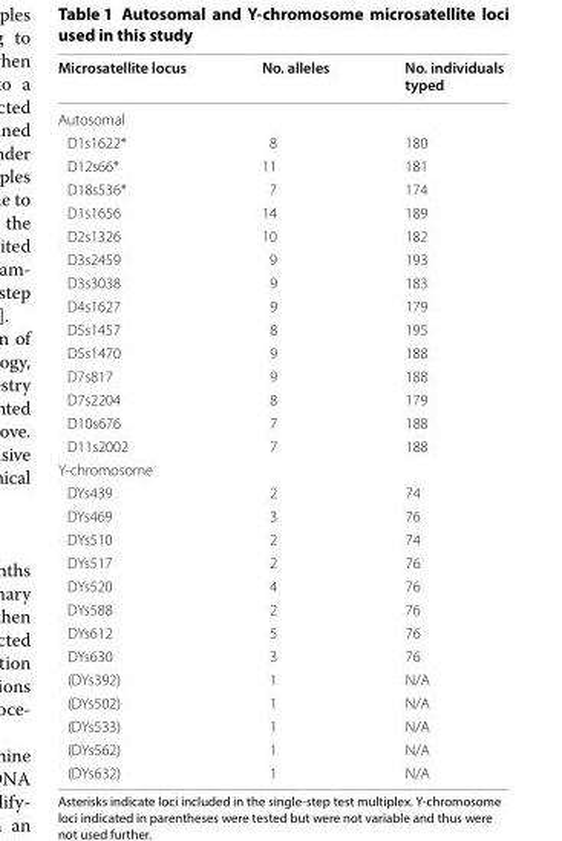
<table><thead><tr><td>Microsatellite locus</td><td>No. alleles</td><td>No. individuals typed</td></tr></thead><tbody><tr><td colspan="3">Autosomal</td></tr><tr><td>D1s1622*</td><td>8</td><td>180</td></tr><tr><td>D12s66*</td><td>11</td><td>181</td></tr><tr><td>D18s536*</td><td>7</td><td>174</td></tr><tr><td>D1s1656</td><td>14</td><td>189</td></tr><tr><td>D2s1326</td><td>10</td><td>182</td></tr><tr><td>D3s2459</td><td>9</td><td>193</td></tr><tr><td>D3s3038</td><td>9</td><td>183</td></tr><tr><td>D4s1627</td><td>9</td><td>179</td></tr><tr><td>D5s1457</td><td>8</td><td>195</td></tr><tr><td>D5s1470</td><td>9</td><td>188</td></tr><tr><td>D7s817</td><td>9</td><td>188</td></tr><tr><td>D7s2204</td><td>8</td><td>179</td></tr><tr><td>D10s676</td><td>7</td><td>188</td></tr><tr><td>D11s2002</td><td>7</td><td>188</td></tr><tr><td colspan="3">Y-chromosome</td></tr><tr><td>DYs439</td><td>2</td><td>74</td></tr><tr><td>DYs469</td><td>3</td><td>76</td></tr><tr><td>DYs510</td><td>2</td><td>74</td></tr><tr><td>DYs517</td><td>2</td><td>76</td></tr><tr><td>DYs520</td><td>4</td><td>76</td></tr><tr><td>DYs588</td><td>2</td><td>76</td></tr><tr><td>DYs612</td><td>5</td><td>76</td></tr><tr><td>DYs630</td><td>3</td><td>76</td></tr><tr><td>(DYs392)</td><td>1</td><td>N/A</td></tr><tr><td>(DYs502)</td><td>1</td><td>N/A</td></tr><tr><td>(DYs533)</td><td>1</td><td>N/A</td></tr><tr><td>(DYs562)</td><td>1</td><td>N/A</td></tr><tr><td>(DYs632)</td><td>1</td><td>N/A</td></tr></tbody></table>